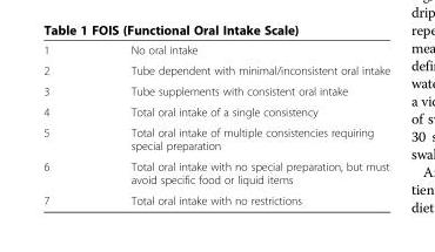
<table><tbody><tr><td>1</td><td>No oral intake</td></tr><tr><td>2</td><td>Tube dependent with minimal/inconsistent oral intake</td></tr><tr><td>3</td><td>Tube supplements with consistent oral intake</td></tr><tr><td>4</td><td>Total oral intake of a single consistency</td></tr><tr><td>5</td><td>Total oral intake of multiple consistencies requiring special preparation</td></tr><tr><td>6</td><td>Total oral intake with no special preparation, but must avoid specific food or liquid items</td></tr><tr><td>7</td><td>Total oral intake with no restrictions</td></tr></tbody></table>